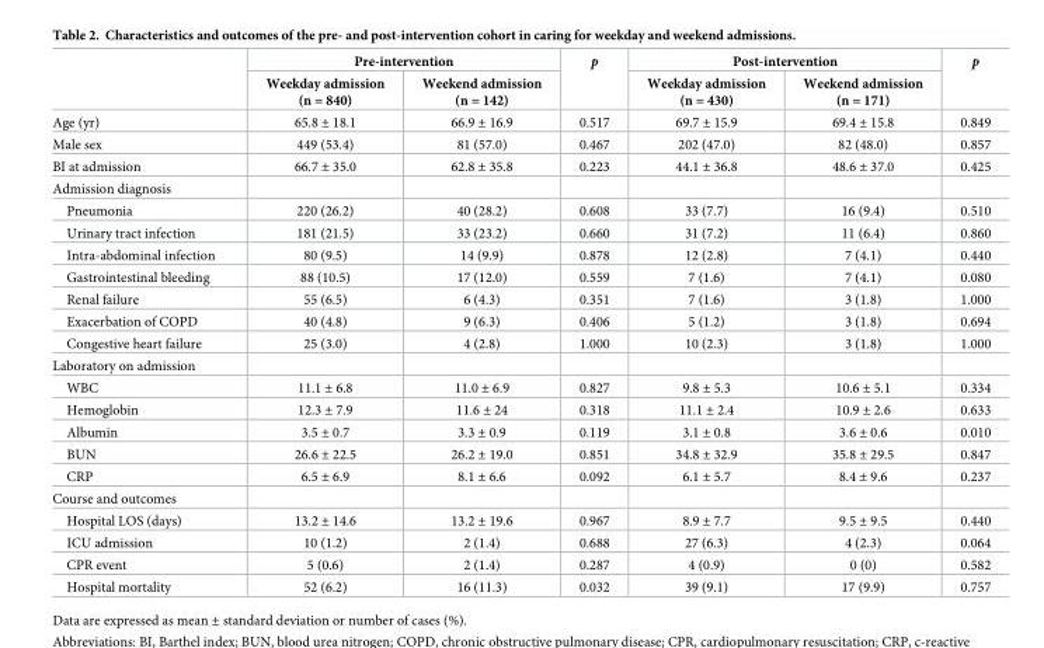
<table><thead><tr><td rowspan="2"></td><td colspan="2">Pre-intervention</td><td rowspan="2">p</td><td colspan="2">Post-intervention</td><td rowspan="2">p</td></tr><tr><td>Weekday admission (n = 840)</td><td>Weekend admission (n = 142)</td><td>Weekday admission (n = 430)</td><td>Weekend admission (n = 171)</td></tr></thead><tbody><tr><td>Age (yr)</td><td>65.8 ± 18.1</td><td>66.9 ± 16.9</td><td>0.517</td><td>69.7 ± 15.9</td><td>69.4 ± 15.8</td><td>0.849</td></tr><tr><td>Male sex</td><td>449 (53.4)</td><td>81 (57.0)</td><td>0.467</td><td>202 (47.0)</td><td>82 (48.0)</td><td>0.857</td></tr><tr><td>BI at admission</td><td>66.7 ± 35.0</td><td>62.8 ± 35.8</td><td>0.223</td><td>44.1 ± 36.8</td><td>48.6 ± 37.0</td><td>0.425</td></tr><tr><td colspan="7">Admission diagnosis</td></tr><tr><td>Pneumonia</td><td>220 (26.2)</td><td>40 (28.2)</td><td>0.608</td><td>33 (7.7)</td><td>16 (9.4)</td><td>0.510</td></tr><tr><td>Urinary tract infection</td><td>181 (21.5)</td><td>33 (23.2)</td><td>0.660</td><td>31 (7.2)</td><td>11 (6.4)</td><td>0.860</td></tr><tr><td>Intra-abdominal infection</td><td>80 (9.5)</td><td>14 (9.9)</td><td>0.878</td><td>12 (2.8)</td><td>7 (4.1)</td><td>0.440</td></tr><tr><td>Gastrointestinal bleeding</td><td>88 (10.5)</td><td>17 (12.0)</td><td>0.559</td><td>7 (1.6)</td><td>7 (4.1)</td><td>0.080</td></tr><tr><td>Renal failure</td><td>55 (6.5)</td><td>6 (4.3)</td><td>0.351</td><td>7 (1.6)</td><td>3 (1.8)</td><td>1.000</td></tr><tr><td>Exacerbation of COPD</td><td>40 (4.8)</td><td>9 (6.3)</td><td>0.406</td><td>5 (1.2)</td><td>3 (1.8)</td><td>0.694</td></tr><tr><td>Congestive heart failure</td><td>25 (3.0)</td><td>4 (2.8)</td><td>1.000</td><td>10 (2.3)</td><td>3 (1.8)</td><td>1.000</td></tr><tr><td colspan="7">Laboratory on admission</td></tr><tr><td>WBC</td><td>11.1 ± 6.8</td><td>11.0 ± 6.9</td><td>0.827</td><td>9.8 ± 5.3</td><td>10.6 ± 5.1</td><td>0.334</td></tr><tr><td>Hemoglobin</td><td>12.3 ± 7.9</td><td>11.6 ± 24</td><td>0.318</td><td>11.1 ± 2.4</td><td>10.9 ± 2.6</td><td>0.633</td></tr><tr><td>Albumin</td><td>3.5 ± 0.7</td><td>3.3 ± 0.9</td><td>0.119</td><td>3.1 ± 0.8</td><td>3.6 ± 0.6</td><td>0.010</td></tr><tr><td>BUN</td><td>26.6 ± 22.5</td><td>26.2 ± 19.0</td><td>0.851</td><td>34.8 ± 32.9</td><td>35.8 ± 29.5</td><td>0.847</td></tr><tr><td>CRP</td><td>6.5 ± 6.9</td><td>8.1 ± 6.6</td><td>0.092</td><td>6.1 ± 5.7</td><td>8.4 ± 9.6</td><td>0.237</td></tr><tr><td colspan="7">Course and outcomes</td></tr><tr><td>Hospital LOS (days)</td><td>13.2 ± 14.6</td><td>13.2 ± 19.6</td><td>0.967</td><td>8.9 ± 7.7</td><td>9.5 ± 9.5</td><td>0.440</td></tr><tr><td>ICU admission</td><td>10 (1.2)</td><td>2 (1.4)</td><td>0.688</td><td>27 (6.3)</td><td>4 (2.3)</td><td>0.064</td></tr><tr><td>CPR event</td><td>5 (0.6)</td><td>2 (1.4)</td><td>0.287</td><td>4 (0.9)</td><td>0 (0)</td><td>0.582</td></tr><tr><td>Hospital mortality</td><td>52 (6.2)</td><td>16 (11.3)</td><td>0.032</td><td>39 (9.1)</td><td>17 (9.9)</td><td>0.757</td></tr></tbody></table>